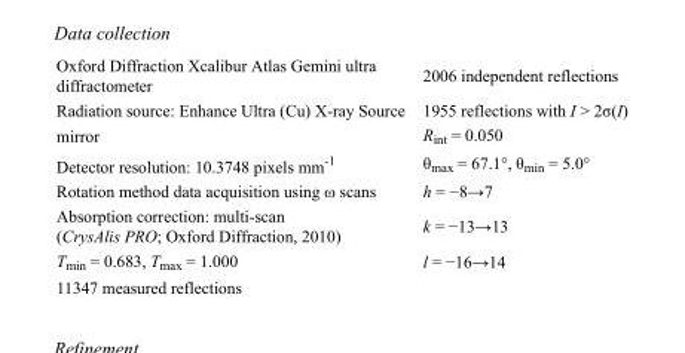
<table><tbody><tr><td>Oxford Diffraction Xcalibur Atlas Gemini ultra diffractometer</td><td>2006 independent reflections</td></tr><tr><td>Radiation source: Enhance Ultra (Cu) X-ray Source</td><td>1955 reflections with I &gt; 2σ(I)</td></tr><tr><td>mirror</td><td>R<sub>int</sub> = 0.050</td></tr><tr><td>Detector resolution: 10.3748 pixels mm<sup>-1</sup></td><td>θ<sub>max</sub> = 67.1°, θ<sub>min</sub> = 5.0°</td></tr><tr><td>Rotation method data acquisition using ω scans</td><td>h = −8→7</td></tr><tr><td>Absorption correction: multi-scan (CrysAlis PRO; Oxford Diffraction, 2010)</td><td>k = −13→13</td></tr><tr><td>T<sub>min</sub> = 0.683, T<sub>max</sub> = 1.000</td><td>l = −16→14</td></tr><tr><td>11347 measured reflections</td><td></td></tr></tbody></table>